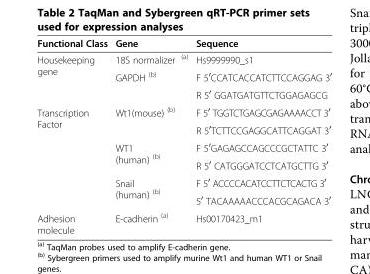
<table><thead><tr><td>Functional Class</td><td>Gene</td><td>Sequence</td></tr></thead><tbody><tr><td rowspan="3">Housekeeping gene</td><td>18S normalizer <sup>(a)</sup></td><td>Hs9999990_s1</td></tr><tr><td rowspan="2">GAPDH <sup>(b)</sup></td><td>F 5<sup>′</sup>CCATCACCATCTTCCAGGAG 3<sup>′</sup></td></tr><tr><td>R 5<sup>′</sup> GGATGATGTTCTGGAGAGCG</td></tr><tr><td rowspan="6">Transcription Factor</td><td rowspan="2">Wt1(mouse) <sup>(b)</sup></td><td>F 5<sup>′</sup> TGGTCTGAGCGAGAAAACCT 3<sup>′</sup></td></tr><tr><td>R 5<sup>′</sup>TCTTCCGAGGCATTCAGGAT 3<sup>′</sup></td></tr><tr><td rowspan="2">WT1 (human) <sup>(b)</sup></td><td>F 5<sup>′</sup>GAGAGCCAGCCCGCTATTC 3<sup>′</sup></td></tr><tr><td>R 5<sup>′</sup> CATGGGATCCTCATGCTTG 3<sup>′</sup></td></tr><tr><td rowspan="2">Snail (human) <sup>(b)</sup></td><td>F 5<sup>′</sup> ACCCCACATCCTTCTCACTG 3<sup>′</sup></td></tr><tr><td>5<sup>′</sup> TACAAAAACCCACGCAGACA 3<sup>′</sup></td></tr><tr><td>Adhesion molecule</td><td>E-cadherin <sup>(a)</sup></td><td>Hs00170423_m1</td></tr></tbody></table>